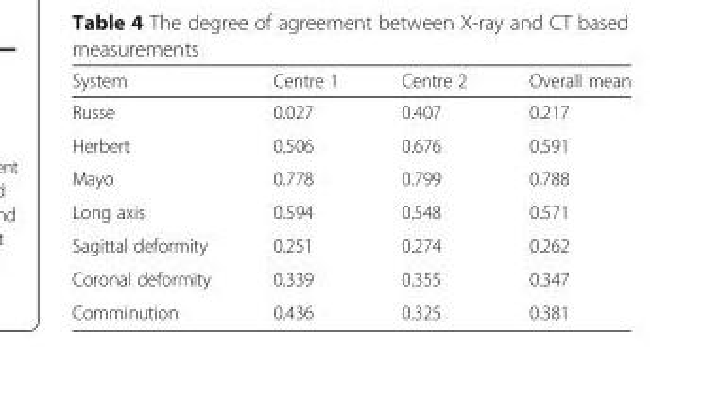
<table><thead><tr><td>System</td><td>Centre 1</td><td>Centre 2</td><td>Overall mean</td></tr></thead><tbody><tr><td>Russe</td><td>0.027</td><td>0.407</td><td>0.217</td></tr><tr><td>Herbert</td><td>0.506</td><td>0.676</td><td>0.591</td></tr><tr><td>Mayo</td><td>0.778</td><td>0.799</td><td>0.788</td></tr><tr><td>Long axis</td><td>0.594</td><td>0.548</td><td>0.571</td></tr><tr><td>Sagittal deformity</td><td>0.251</td><td>0.274</td><td>0.262</td></tr><tr><td>Coronal deformity</td><td>0.339</td><td>0.355</td><td>0.347</td></tr><tr><td>Comminution</td><td>0.436</td><td>0.325</td><td>0.381</td></tr></tbody></table>